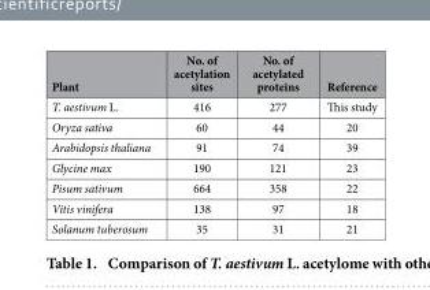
<table><thead><tr><td>Plant</td><td>No. of acetylation sites</td><td>No. of acetylated proteins</td><td>Reference</td></tr></thead><tbody><tr><td>T. aestivum L.</td><td>416</td><td>277</td><td>This study</td></tr><tr><td>Oryza sativa</td><td>60</td><td>44</td><td>20</td></tr><tr><td>Arabidopsis thaliana</td><td>91</td><td>74</td><td>39</td></tr><tr><td>Glycine max</td><td>190</td><td>121</td><td>23</td></tr><tr><td>Pisum sativum</td><td>664</td><td>358</td><td>22</td></tr><tr><td>Vitis vinifera</td><td>138</td><td>97</td><td>18</td></tr><tr><td>Solanum tuberosum</td><td>35</td><td>31</td><td>21</td></tr></tbody></table>